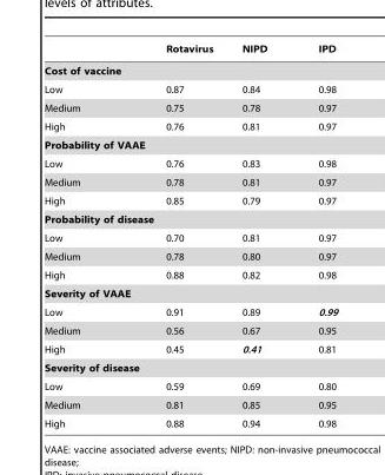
<table><thead><tr><td></td><td>Rotavirus</td><td>NIPD</td><td>IPD</td></tr></thead><tbody><tr><td colspan="4">Cost of vaccine</td></tr><tr><td>Low</td><td>0.87</td><td>0.84</td><td>0.98</td></tr><tr><td>Medium</td><td>0.75</td><td>0.78</td><td>0.97</td></tr><tr><td>High</td><td>0.76</td><td>0.81</td><td>0.97</td></tr><tr><td colspan="4">Probability of VAAE</td></tr><tr><td>Low</td><td>0.76</td><td>0.83</td><td>0.98</td></tr><tr><td>Medium</td><td>0.78</td><td>0.81</td><td>0.97</td></tr><tr><td>High</td><td>0.85</td><td>0.79</td><td>0.97</td></tr><tr><td colspan="4">Probability of disease</td></tr><tr><td>Low</td><td>0.70</td><td>0.81</td><td>0.97</td></tr><tr><td>Medium</td><td>0.78</td><td>0.80</td><td>0.97</td></tr><tr><td>High</td><td>0.88</td><td>0.82</td><td>0.98</td></tr><tr><td colspan="4">Severity of VAAE</td></tr><tr><td>Low</td><td>0.91</td><td>0.89</td><td>0.99</td></tr><tr><td>Medium</td><td>0.56</td><td>0.67</td><td>0.95</td></tr><tr><td>High</td><td>0.45</td><td>0.41</td><td>0.81</td></tr><tr><td colspan="4">Severity of disease</td></tr><tr><td>Low</td><td>0.59</td><td>0.69</td><td>0.80</td></tr><tr><td>Medium</td><td>0.81</td><td>0.85</td><td>0.95</td></tr><tr><td>High</td><td>0.88</td><td>0.94</td><td>0.98</td></tr></tbody></table>